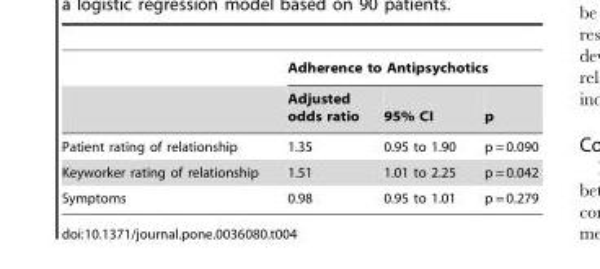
<table><thead><tr><td rowspan="2"></td><td colspan="3">Adherence to Antipsychotics</td></tr><tr><td>Adjusted odds ratio</td><td>95% CI</td><td>p</td></tr></thead><tbody><tr><td>Patient rating of relationship</td><td>1.35</td><td>0.95 to 1.90</td><td>p = 0.090</td></tr><tr><td>Keyworker rating of relationship</td><td>1.51</td><td>1.01 to 2.25</td><td>p = 0.042</td></tr><tr><td>Symptoms</td><td>0.98</td><td>0.95 to 1.01</td><td>p = 0.279</td></tr></tbody></table>